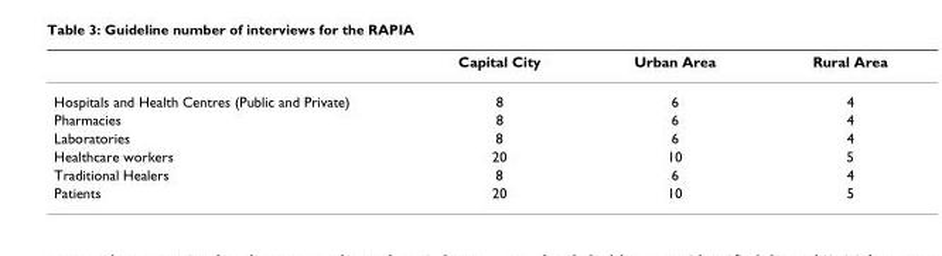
<table><thead><tr><td></td><td>Capital City</td><td>Urban Area</td><td>Rural Area</td></tr></thead><tbody><tr><td>Hospitals and Health Centres (Public and Private)</td><td>8</td><td>6</td><td>4</td></tr><tr><td>Pharmacies</td><td>8</td><td>6</td><td>4</td></tr><tr><td>Laboratories</td><td>8</td><td>6</td><td>4</td></tr><tr><td>Healthcare workers</td><td>20</td><td>10</td><td>5</td></tr><tr><td>Traditional Healers</td><td>8</td><td>6</td><td>4</td></tr><tr><td>Patients</td><td>20</td><td>10</td><td>5</td></tr></tbody></table>